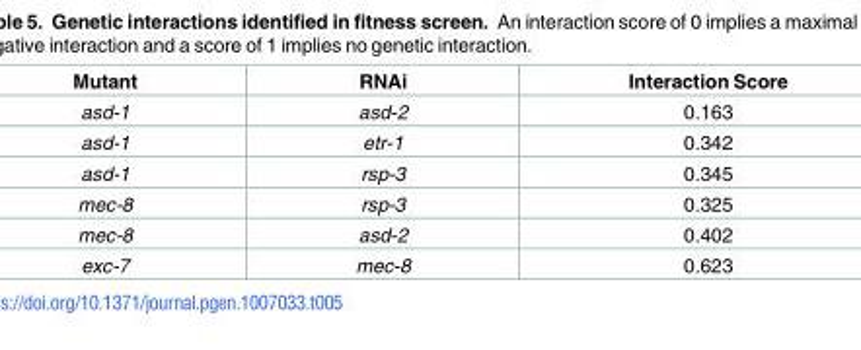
<table><thead><tr><td>Mutant</td><td>RNAi</td><td>Interaction Score</td></tr></thead><tbody><tr><td>asd-1</td><td>asd-2</td><td>0.163</td></tr><tr><td>asd-1</td><td>etr-1</td><td>0.342</td></tr><tr><td>asd-1</td><td>rsp-3</td><td>0.345</td></tr><tr><td>mec-8</td><td>rsp-3</td><td>0.325</td></tr><tr><td>mec-8</td><td>asd-2</td><td>0.402</td></tr><tr><td>exc-7</td><td>mec-8</td><td>0.623</td></tr></tbody></table>